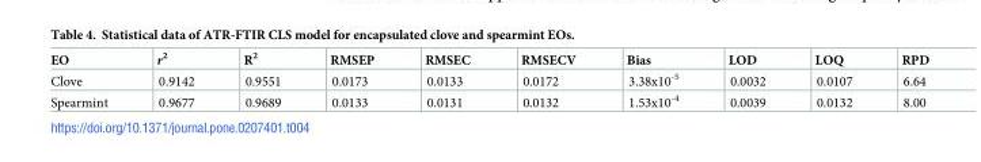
<table><thead><tr><td>EO</td><td>r<sup>2</sup></td><td>R<sup>2</sup></td><td>RMSEP</td><td>RMSEC</td><td>RMSECV</td><td>Bias</td><td>LOD</td><td>LOQ</td><td>RPD</td></tr></thead><tbody><tr><td>Clove</td><td>0.9142</td><td>0.9551</td><td>0.0173</td><td>0.0133</td><td>0.0172</td><td>3.38x10<sup>-5</sup></td><td>0.0032</td><td>0.0107</td><td>6.64</td></tr><tr><td>Spearmint</td><td>0.9677</td><td>0.9689</td><td>0.0133</td><td>0.0131</td><td>0.0132</td><td>1.53x10<sup>-4</sup></td><td>0.0039</td><td>0.0132</td><td>8.00</td></tr></tbody></table>